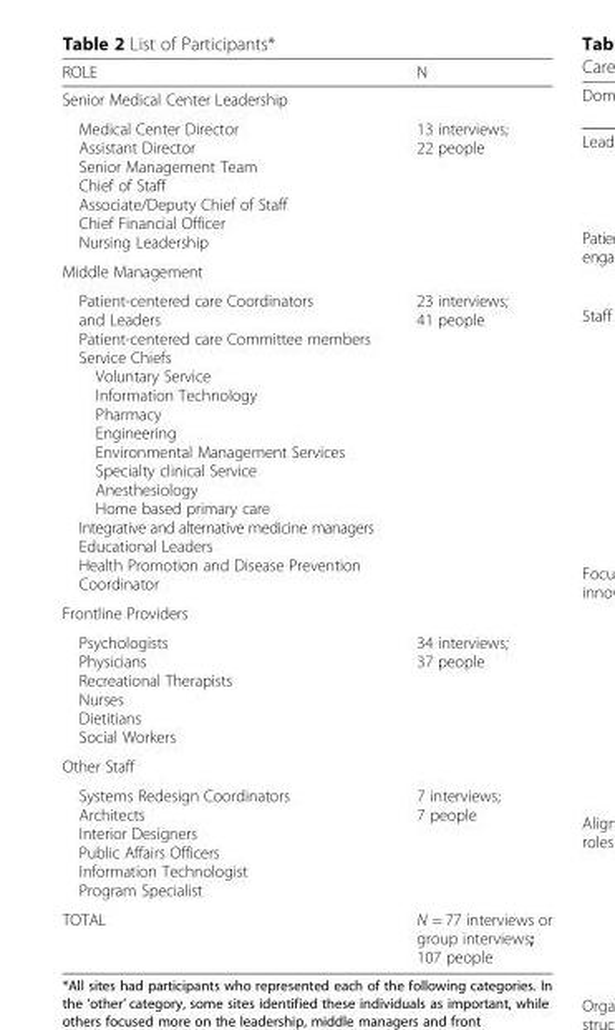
<table><thead><tr><td>ROLE</td><td>N</td></tr></thead><tbody><tr><td colspan="2">Senior Medical Center Leadership</td></tr><tr><td>Medical Center Director Assistant Director Senior Management Team Chief of Staff Associate/Deputy Chief of Staff Chief Financial Officer Nursing Leadership</td><td>13 interviews; 22 people</td></tr><tr><td colspan="2">Middle Management</td></tr><tr><td>Patient-centered care Coordinators and Leaders Patient-centered care Committee members Service Chiefs Voluntary Service Information Technology Pharmacy Engineering Environmental Management Services Specialty clinical Service Anesthesiology Home based primary care Integrative and alternative medicine managers Educational Leaders Health Promotion and Disease Prevention Coordinator</td><td>23 interviews; 41 people</td></tr><tr><td colspan="2">Frontline Providers</td></tr><tr><td>Psychologists Physicians Recreational Therapists Nurses Dietitians Social Workers</td><td>34 interviews; 37 people</td></tr><tr><td colspan="2">Other Staff</td></tr><tr><td>Systems Redesign Coordinators Architects Interior Designers Public Affairs Officers Information Technologist Program Specialist</td><td>7 interviews; 7 people</td></tr><tr><td>TOTAL</td><td>N = 77 interviews or group interviews; 107 people</td></tr></tbody></table>